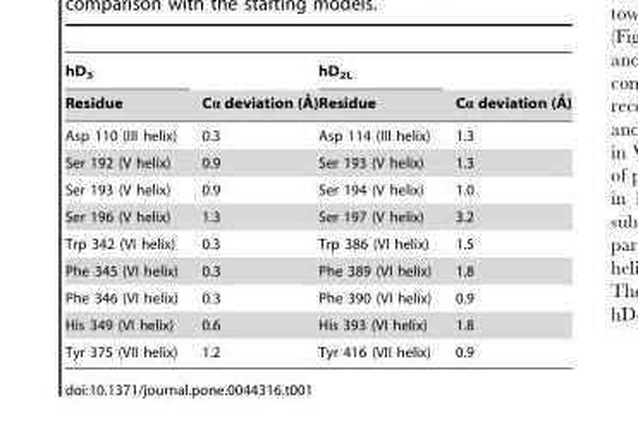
<table><thead><tr><td rowspan="2">hD<sub>3</sub> Residue</td><td rowspan="2">Ca deviation (A˚</td><td rowspan="2">hD2L )Residue</td><td rowspan="2">Ca deviation (A˚ )</td></tr><tr></tr></thead><tbody><tr><td>Asp 110 (III helix)</td><td>0.3</td><td>Asp 114 (III helix)</td><td>1.3</td></tr><tr><td>Ser 192 (V helix)</td><td>0.9</td><td>Ser 193 (V helix)</td><td>1.3</td></tr><tr><td>Ser 193 (V helix)</td><td>0.9</td><td>Ser 194 (V helix)</td><td>1.0</td></tr><tr><td>Ser 196 (V helix)</td><td>1.3</td><td>Ser 197 (V helix)</td><td>3.2</td></tr><tr><td>Trp 342 (VI helix)</td><td>0.3</td><td>Trp 386 (VI helix)</td><td>1.5</td></tr><tr><td>Phe 345 (VI helix)</td><td>0.3</td><td>Phe 389 (VI helix)</td><td>1.8</td></tr><tr><td>Phe 346 (VI helix)</td><td>0.3</td><td>Phe 390 (VI helix)</td><td>0.9</td></tr><tr><td>His 349 (VI helix)</td><td>0.6</td><td>His 393 (VI helix)</td><td>1.8</td></tr><tr><td>Tyr 375 (VII helix)</td><td>1.2</td><td>Tyr 416 (VII helix)</td><td>0.9</td></tr></tbody></table>